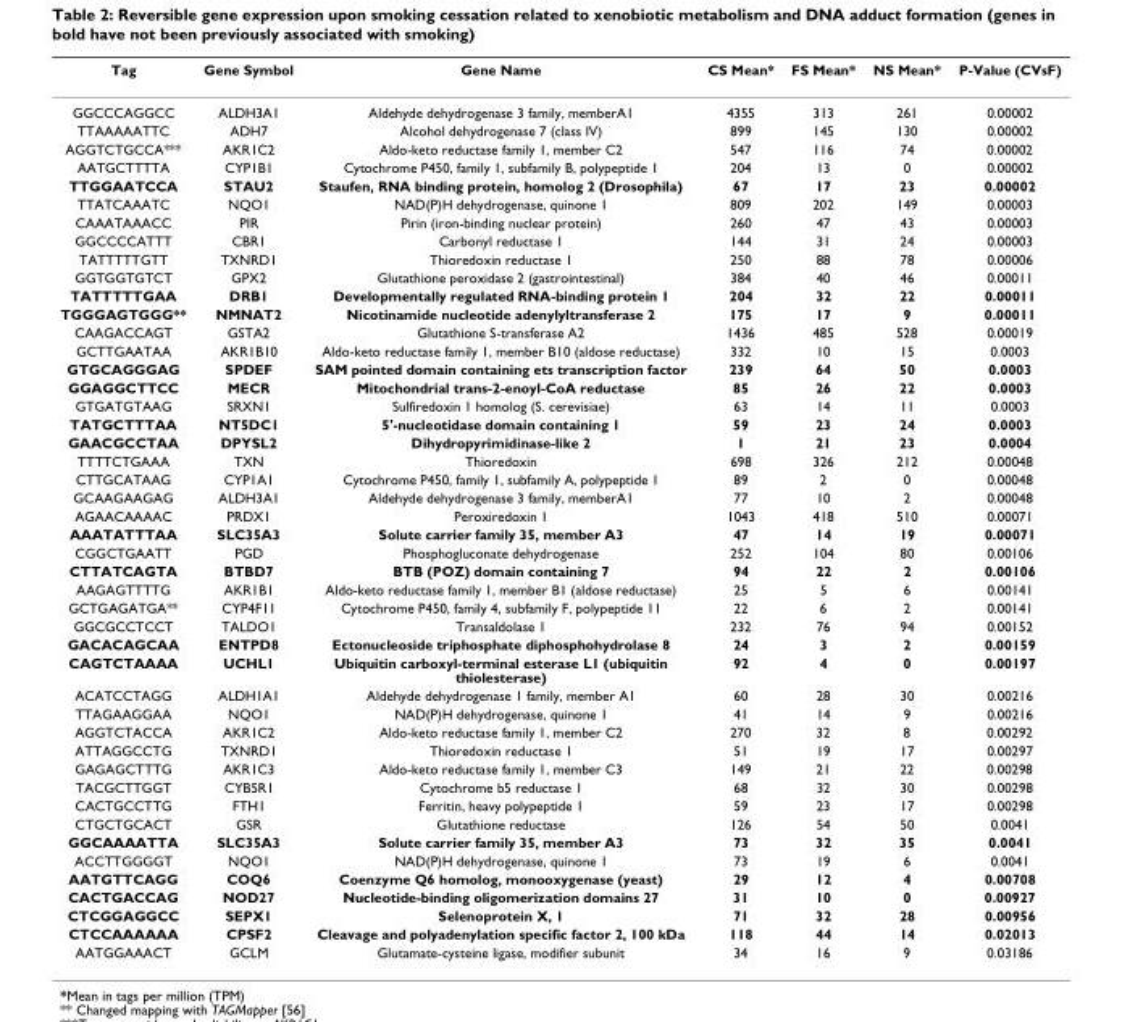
<table><thead><tr><td>Tag</td><td>Gene Symbol</td><td>Gene Name</td><td>CS Mean*</td><td>FS Mean*</td><td>NS Mean*</td><td>P-Value (CVsF)</td></tr></thead><tbody><tr><td>GGCCCAGGCC</td><td>ALDH3A1</td><td>Aldehyde dehydrogenase 3 family, memberA1</td><td>4355</td><td>313</td><td>261</td><td>0.00002</td></tr><tr><td>TTAAAAATTC</td><td>ADH7</td><td>Alcohol dehydrogenase 7 (class IV)</td><td>899</td><td>145</td><td>130</td><td>0.00002</td></tr><tr><td>AGGTCTGCCA***</td><td>AKR1C2</td><td>Aldo-keto reductase family 1, member C2</td><td>547</td><td>116</td><td>74</td><td>0.00002</td></tr><tr><td>AATGCTTTTA</td><td>CYP1B1</td><td>Cytochrome P450, family 1, subfamily B, polypeptide 1</td><td>204</td><td>13</td><td>0</td><td>0.00002</td></tr><tr><td>TTGGAATCCA</td><td>STAU2</td><td>Staufen, RNA binding protein, homolog 2 (Drosophila)</td><td>67</td><td>17</td><td>23</td><td>0.00002</td></tr><tr><td>TTATCAAATC</td><td>NQO1</td><td>NAD(P)H dehydrogenase, quinone 1</td><td>809</td><td>202</td><td>149</td><td>0.00003</td></tr><tr><td>CAAATAAACC</td><td>PIR</td><td>Pirin (iron-binding nuclear protein)</td><td>260</td><td>47</td><td>43</td><td>0.00003</td></tr><tr><td>GGCCCCATTT</td><td>CBR1</td><td>Carbonyl reductase 1</td><td>144</td><td>31</td><td>24</td><td>0.00003</td></tr><tr><td>TATTTTTGTT</td><td>TXNRD1</td><td>Thioredoxin reductase 1</td><td>250</td><td>88</td><td>78</td><td>0.00006</td></tr><tr><td>GGTGGTGTCT</td><td>GPX2</td><td>Glutathione peroxidase 2 (gastrointestinal)</td><td>384</td><td>40</td><td>46</td><td>0.00011</td></tr><tr><td>TATTTTTGAA</td><td>DRB1</td><td>Developmentally regulated RNA-binding protein 1</td><td>204</td><td>32</td><td>22</td><td>0.00011</td></tr><tr><td>TGGGAGTGGG**</td><td>NMNAT2</td><td>Nicotinamide nucleotide adenylyltransferase 2</td><td>175</td><td>17</td><td>9</td><td>0.00011</td></tr><tr><td>CAAGACCAGT</td><td>GSTA2</td><td>Glutathione S-transferase A2</td><td>1436</td><td>485</td><td>528</td><td>0.00019</td></tr><tr><td>GCTTGAATAA</td><td>AKR1B10</td><td>Aldo-keto reductase family 1, member B10 (aldose reductase)</td><td>332</td><td>10</td><td>15</td><td>0.0003</td></tr><tr><td>GTGCAGGGAG</td><td>SPDEF</td><td>SAM pointed domain containing ets transcription factor</td><td>239</td><td>64</td><td>50</td><td>0.0003</td></tr><tr><td>GGAGGCTTCC</td><td>MECR</td><td>Mitochondrial trans-2-enoyl-CoA reductase</td><td>85</td><td>26</td><td>22</td><td>0.0003</td></tr><tr><td>GTGATGTAAG</td><td>SRXN1</td><td>Sulfiredoxin 1 homolog (S. cerevisiae)</td><td>63</td><td>14</td><td>11</td><td>0.0003</td></tr><tr><td>TATGCTTTAA</td><td>NT5DC1</td><td>5&#x27;-nucleotidase domain containing 1</td><td>59</td><td>23</td><td>24</td><td>0.0003</td></tr><tr><td>GAACGCCTAA</td><td>DPYSL2</td><td>Dihydropyrimidinase-like 2</td><td>1</td><td>21</td><td>23</td><td>0.0004</td></tr><tr><td>TTTTCTGAAA</td><td>TXN</td><td>Thioredoxin</td><td>698</td><td>326</td><td>212</td><td>0.00048</td></tr><tr><td>CTTGCATAAG</td><td>CYP1A1</td><td>Cytochrome P450, family 1, subfamily A, polypeptide 1</td><td>89</td><td>2</td><td>0</td><td>0.00048</td></tr><tr><td>GCAAGAAGAG</td><td>ALDH3A1</td><td>Aldehyde dehydrogenase 3 family, memberA1</td><td>77</td><td>10</td><td>2</td><td>0.00048</td></tr><tr><td>AGAACAAAAC</td><td>PRDX1</td><td>Peroxiredoxin 1</td><td>1043</td><td>418</td><td>510</td><td>0.00071</td></tr><tr><td>AAATATTTAA</td><td>SLC35A3</td><td>Solute carrier family 35, member A3</td><td>47</td><td>14</td><td>19</td><td>0.00071</td></tr><tr><td>CGGCTGAATT</td><td>PGD</td><td>Phosphogluconate dehydrogenase</td><td>252</td><td>104</td><td>80</td><td>0.00106</td></tr><tr><td>CTTATCAGTA</td><td>BTBD7</td><td>BTB (POZ) domain containing 7</td><td>94</td><td>22</td><td>2</td><td>0.00106</td></tr><tr><td>AAGAGTTTTG</td><td>AKR1B1</td><td>Aldo-keto reductase family 1, member B1 (aldose reductase)</td><td>25</td><td>5</td><td>6</td><td>0.00141</td></tr><tr><td>GCTGAGATGA**</td><td>CYP4F11</td><td>Cytochrome P450, family 4, subfamily F, polypeptide 11</td><td>22</td><td>6</td><td>2</td><td>0.00141</td></tr><tr><td>GGCGCCTCCT</td><td>TALDO1</td><td>Transaldolase 1</td><td>232</td><td>76</td><td>94</td><td>0.00152</td></tr><tr><td>GACACAGCAA</td><td>ENTPD8</td><td>Ectonucleoside triphosphate diphosphohydrolase 8</td><td>24</td><td>3</td><td>2</td><td>0.00159</td></tr><tr><td>CAGTCTAAAA</td><td>UCHL1</td><td>Ubiquitin carboxyl-terminal esterase L1 (ubiquitin thiolesterase)</td><td>92</td><td>4</td><td>0</td><td>0.00197</td></tr><tr><td>ACATCCTAGG</td><td>ALDH1A1</td><td>Aldehyde dehydrogenase 1 family, member A1</td><td>60</td><td>28</td><td>30</td><td>0.00216</td></tr><tr><td>TTAGAAGGAA</td><td>NQO1</td><td>NAD(P)H dehydrogenase, quinone 1</td><td>41</td><td>14</td><td>9</td><td>0.00216</td></tr><tr><td>AGGTCTACCA</td><td>AKR1C2</td><td>Aldo-keto reductase family 1, member C2</td><td>270</td><td>32</td><td>8</td><td>0.00292</td></tr><tr><td>ATTAGGCCTG</td><td>TXNRD1</td><td>Thioredoxin reductase 1</td><td>51</td><td>19</td><td>17</td><td>0.00297</td></tr><tr><td>GAGAGCTTTG</td><td>AKR1C3</td><td>Aldo-keto reductase family 1, member C3</td><td>149</td><td>21</td><td>22</td><td>0.00298</td></tr><tr><td>TACGCTTGGT</td><td>CYB5R1</td><td>Cytochrome b5 reductase 1</td><td>68</td><td>32</td><td>30</td><td>0.00298</td></tr><tr><td>CACTGCCTTG</td><td>FTH1</td><td>Ferritin, heavy polypeptide 1</td><td>59</td><td>23</td><td>17</td><td>0.00298</td></tr><tr><td>CTGCTGCACT</td><td>GSR</td><td>Glutathione reductase</td><td>126</td><td>54</td><td>50</td><td>0.0041</td></tr><tr><td>GGCAAAATTA</td><td>SLC35A3</td><td>Solute carrier family 35, member A3</td><td>73</td><td>32</td><td>35</td><td>0.0041</td></tr><tr><td>ACCTTGGGGT</td><td>NQO1</td><td>NAD(P)H dehydrogenase, quinone 1</td><td>73</td><td>19</td><td>6</td><td>0.0041</td></tr><tr><td>AATGTTCAGG</td><td>COQ6</td><td>Coenzyme Q6 homolog, monooxygenase (yeast)</td><td>29</td><td>12</td><td>4</td><td>0.00708</td></tr><tr><td>CACTGACCAG</td><td>NOD27</td><td>Nucleotide-binding oligomerization domains 27</td><td>31</td><td>10</td><td>0</td><td>0.00927</td></tr><tr><td>CTCGGAGGCC</td><td>SEPX1</td><td>Selenoprotein X, 1</td><td>71</td><td>32</td><td>28</td><td>0.00956</td></tr><tr><td>CTCCAAAAAA</td><td>CPSF2</td><td>Cleavage and polyadenylation specific factor 2, 100 kDa</td><td>118</td><td>44</td><td>14</td><td>0.02013</td></tr><tr><td>AATGGAAACT</td><td>GCLM</td><td>Glutamate-cysteine ligase, modifier subunit</td><td>34</td><td>16</td><td>9</td><td>0.03186</td></tr></tbody></table>